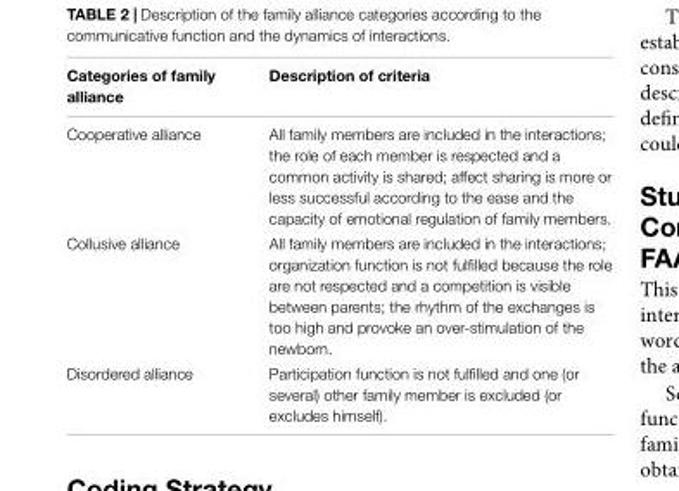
<table><thead><tr><td>Categories of family alliance</td><td>Description of criteria</td></tr></thead><tbody><tr><td>Cooperative alliance</td><td>All family members are included in the interactions; the role of each member is respected and a common activity is shared; affect sharing is more or less successful according to the ease and the capacity of emotional regulation of family members.</td></tr><tr><td>Collusive alliance</td><td>All family members are included in the interactions; organization function is not fulfilled because the role are not respected and a competition is visible between parents; the rhythm of the exchanges is too high and provoke an over-stimulation of the newborn.</td></tr><tr><td>Disordered alliance</td><td>Participation function is not fulfilled and one (or several) other family member is excluded (or excludes himself).</td></tr></tbody></table>